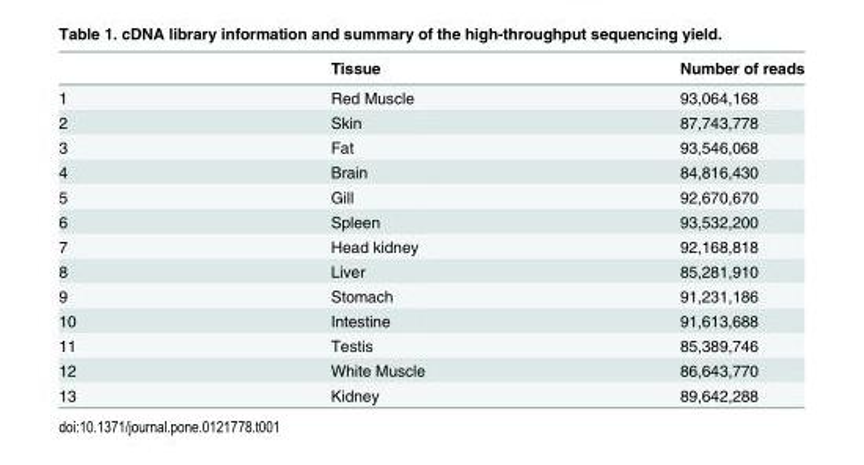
<table><thead><tr><td></td><td>Tissue</td><td>Number of reads</td></tr></thead><tbody><tr><td>1</td><td>Red Muscle</td><td>93,064,168</td></tr><tr><td>2</td><td>Skin</td><td>87,743,778</td></tr><tr><td>3</td><td>Fat</td><td>93,546,068</td></tr><tr><td>4</td><td>Brain</td><td>84,816,430</td></tr><tr><td>5</td><td>Gill</td><td>92,670,670</td></tr><tr><td>6</td><td>Spleen</td><td>93,532,200</td></tr><tr><td>7</td><td>Head kidney</td><td>92,168,818</td></tr><tr><td>8</td><td>Liver</td><td>85,281,910</td></tr><tr><td>9</td><td>Stomach</td><td>91,231,186</td></tr><tr><td>10</td><td>Intestine</td><td>91,613,688</td></tr><tr><td>11</td><td>Testis</td><td>85,389,746</td></tr><tr><td>12</td><td>White Muscle</td><td>86,643,770</td></tr><tr><td>13</td><td>Kidney</td><td>89,642,288</td></tr></tbody></table>